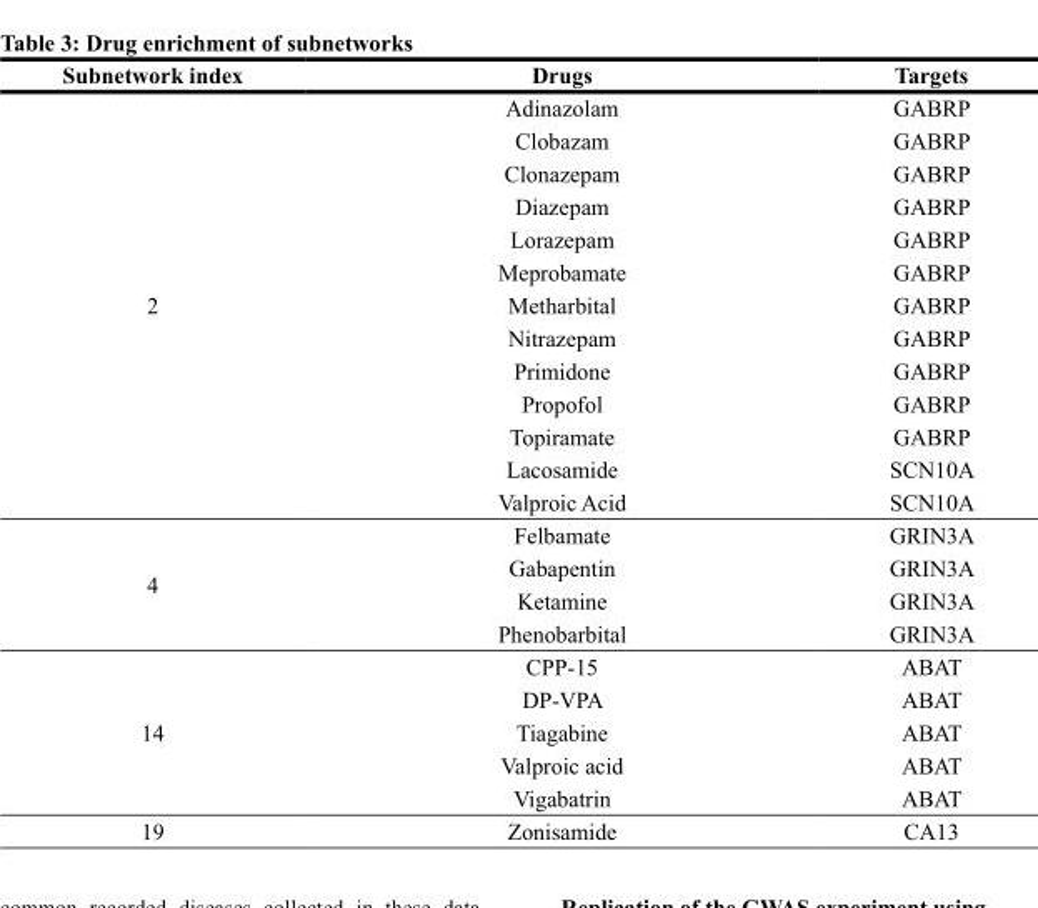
<table><thead><tr><td>Subnetwork index</td><td>Drugs</td><td>Targets</td></tr></thead><tbody><tr><td rowspan="13">2</td><td>Adinazolam</td><td>GABRP</td></tr><tr><td>Clobazam</td><td>GABRP</td></tr><tr><td>Clonazepam</td><td>GABRP</td></tr><tr><td>Diazepam</td><td>GABRP</td></tr><tr><td>Lorazepam</td><td>GABRP</td></tr><tr><td>Meprobamate</td><td>GABRP</td></tr><tr><td>Metharbital</td><td>GABRP</td></tr><tr><td>Nitrazepam</td><td>GABRP</td></tr><tr><td>Primidone</td><td>GABRP</td></tr><tr><td>Propofol</td><td>GABRP</td></tr><tr><td>Topiramate</td><td>GABRP</td></tr><tr><td>Lacosamide</td><td>SCN10A</td></tr><tr><td>Valproic Acid</td><td>SCN10A</td></tr><tr><td rowspan="4">4</td><td>Felbamate</td><td>GRIN3A</td></tr><tr><td>Gabapentin</td><td>GRIN3A</td></tr><tr><td>Ketamine</td><td>GRIN3A</td></tr><tr><td>Phenobarbital</td><td>GRIN3A</td></tr><tr><td rowspan="5">14</td><td>CPP-15</td><td>ABAT</td></tr><tr><td>DP-VPA</td><td>ABAT</td></tr><tr><td>Tiagabine</td><td>ABAT</td></tr><tr><td>Valproic acid</td><td>ABAT</td></tr><tr><td>Vigabatrin</td><td>ABAT</td></tr><tr><td>19</td><td>Zonisamide</td><td>CA13</td></tr></tbody></table>